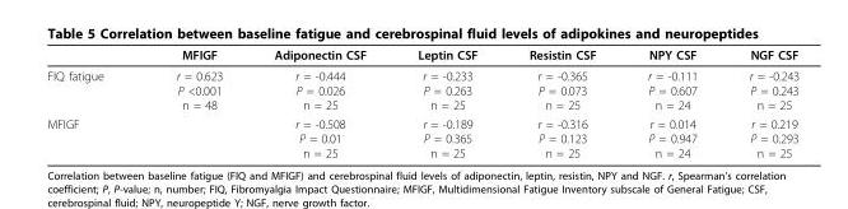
<table><thead><tr><td></td><td>MFIGF</td><td>Adiponectin CSF</td><td>Leptin CSF</td><td>Resistin CSF</td><td>NPY CSF</td><td>NGF CSF</td></tr></thead><tbody><tr><td>FIQ fatigue</td><td>r = 0.623 P &lt;0.001 n = 48</td><td>r = -0.444 P = 0.026 n = 25</td><td>r = -0.233 P = 0.263 n = 25</td><td>r = -0.365 P = 0.073 n = 25</td><td>r = -0.111 P = 0.607 n = 24</td><td>r = -0.243 P = 0.243 n = 25</td></tr><tr><td>MFIGF</td><td></td><td>r = -0.508 P = 0.01 n = 25</td><td>r = -0.189 P = 0.365 n = 25</td><td>r = -0.316 P = 0.123 n = 25</td><td>r = 0.014 P = 0.947 n = 24</td><td>r = 0.219 P = 0.293 n = 25</td></tr></tbody></table>